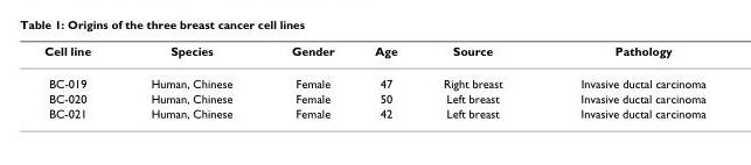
<table><thead><tr><td>Cell line</td><td>Species</td><td>Gender</td><td>Age</td><td>Source</td><td>Pathology</td></tr></thead><tbody><tr><td>BC-019</td><td>Human, Chinese</td><td>Female</td><td>47</td><td>Right breast</td><td>Invasive ductal carcinoma</td></tr><tr><td>BC-020</td><td>Human, Chinese</td><td>Female</td><td>50</td><td>Left breast</td><td>Invasive ductal carcinoma</td></tr><tr><td>BC-021</td><td>Human, Chinese</td><td>Female</td><td>42</td><td>Left breast</td><td>Invasive ductal carcinoma</td></tr></tbody></table>